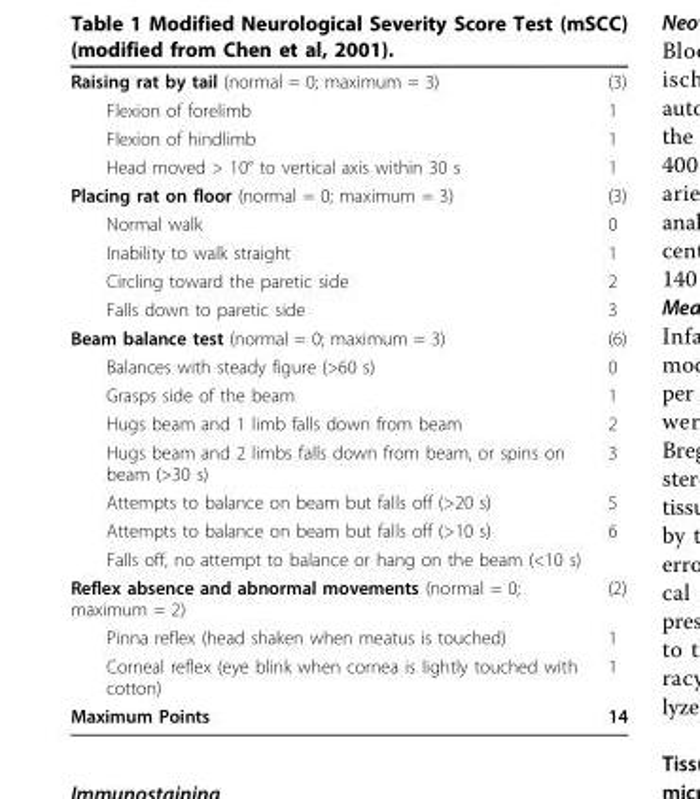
<table><tbody><tr><td>Raising rat by tail (normal = 0; maximum = 3)</td><td>(3)</td></tr><tr><td>Flexion of forelimb</td><td>1</td></tr><tr><td>Flexion of hindlimb</td><td>1</td></tr><tr><td>Head moved &gt; 10° to vertical axis within 30 s</td><td>1</td></tr><tr><td>Placing rat on floor (normal = 0; maximum = 3)</td><td>(3)</td></tr><tr><td>Normal walk</td><td>0</td></tr><tr><td>Inability to walk straight</td><td>1</td></tr><tr><td>Circling toward the paretic side</td><td>2</td></tr><tr><td>Falls down to paretic side</td><td>3</td></tr><tr><td>Beam balance test (normal = 0; maximum = 3)</td><td>(6)</td></tr><tr><td>Balances with steady figure (&gt;60 s)</td><td>0</td></tr><tr><td>Grasps side of the beam</td><td>1</td></tr><tr><td>Hugs beam and 1 limb falls down from beam</td><td>2</td></tr><tr><td>Hugs beam and 2 limbs falls down from beam, or spins on beam (&gt;30 s)</td><td>3</td></tr><tr><td>Attempts to balance on beam but falls off (&gt;20 s)</td><td>5</td></tr><tr><td>Attempts to balance on beam but falls off (&gt;10 s)</td><td>6</td></tr><tr><td colspan="2">Falls off, no attempt to balance or hang on the beam (&lt;10 s)</td></tr><tr><td>Reflex absence and abnormal movements (normal = 0; maximum = 2)</td><td>(2)</td></tr><tr><td>Pinna reflex (head shaken when meatus is touched)</td><td>1</td></tr><tr><td>Corneal reflex (eye blink when cornea is lightly touched with cotton)</td><td>1</td></tr><tr><td>Maximum Points</td><td>14</td></tr></tbody></table>